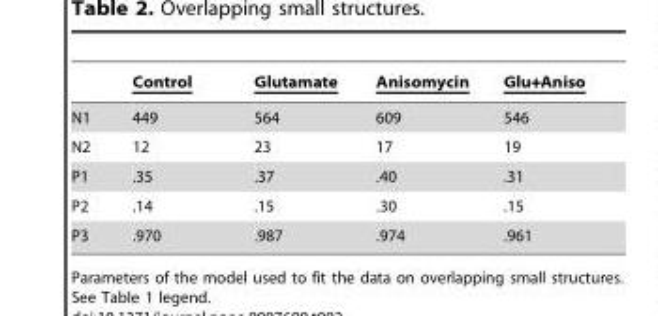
<table><thead><tr><td></td><td>Control</td><td>Glutamate</td><td>Anisomycin</td><td>Glu+Aniso</td></tr></thead><tbody><tr><td>N1</td><td>449</td><td>564</td><td>609</td><td>546</td></tr><tr><td>N2</td><td>12</td><td>23</td><td>17</td><td>19</td></tr><tr><td>P1</td><td>.35</td><td>.37</td><td>.40</td><td>.31</td></tr><tr><td>P2</td><td>.14</td><td>.15</td><td>.30</td><td>.15</td></tr><tr><td>P3</td><td>.970</td><td>.987</td><td>.974</td><td>.961</td></tr></tbody></table>